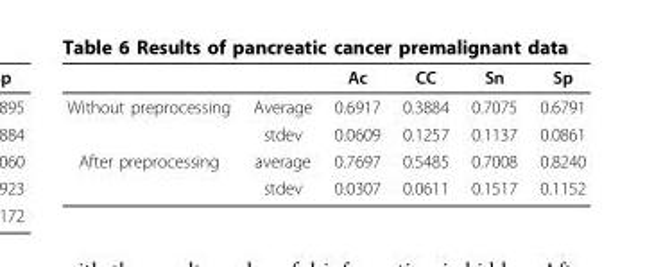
<table><thead><tr><td></td><td></td><td>Ac</td><td>CC</td><td>Sn</td><td>Sp</td></tr></thead><tbody><tr><td rowspan="2">Without preprocessing</td><td>Average</td><td>0.6917</td><td>0.3884</td><td>0.7075</td><td>0.6791</td></tr><tr><td>stdev</td><td>0.0609</td><td>0.1257</td><td>0.1137</td><td>0.0861</td></tr><tr><td rowspan="2">After preprocessing</td><td>average</td><td>0.7697</td><td>0.5485</td><td>0.7008</td><td>0.8240</td></tr><tr><td>stdev</td><td>0.0307</td><td>0.0611</td><td>0.1517</td><td>0.1152</td></tr></tbody></table>